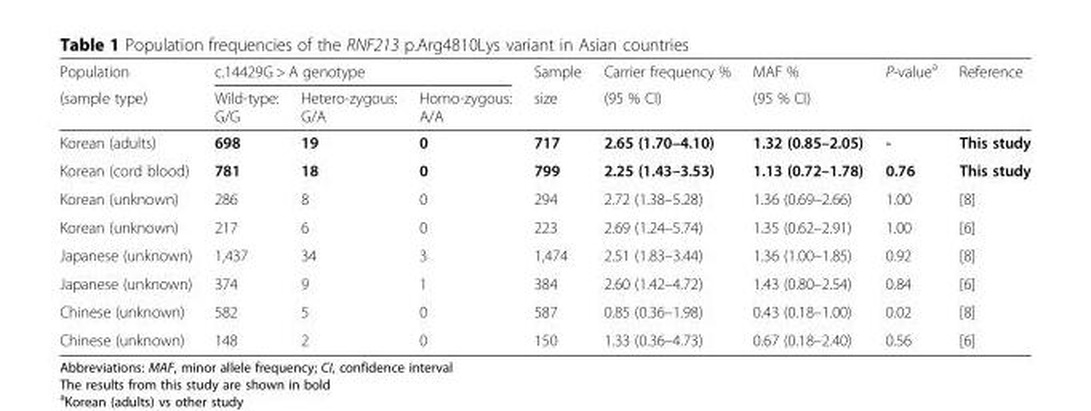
<table><thead><tr><td rowspan="2">Population (sample type)</td><td colspan="3">c.14429G &gt; A genotype</td><td rowspan="2">Sample size</td><td rowspan="2">Carrier frequency % (95 % CI)</td><td rowspan="2">MAF % (95 % CI)</td><td rowspan="2">P-value<sup>a</sup></td><td rowspan="2">Reference</td></tr><tr><td>Wild-type: G/G</td><td>Hetero-zygous: G/A</td><td>Homo-zygous: A/A</td></tr></thead><tbody><tr><td>Korean (adults)</td><td>698</td><td>19</td><td>0</td><td>717</td><td>2.65 (1.70–4.10)</td><td>1.32 (0.85–2.05)</td><td>-</td><td>This study</td></tr><tr><td>Korean (cord blood)</td><td>781</td><td>18</td><td>0</td><td>799</td><td>2.25 (1.43–3.53)</td><td>1.13 (0.72–1.78)</td><td>0.76</td><td>This study</td></tr><tr><td>Korean (unknown)</td><td>286</td><td>8</td><td>0</td><td>294</td><td>2.72 (1.38–5.28)</td><td>1.36 (0.69–2.66)</td><td>1.00</td><td>[8]</td></tr><tr><td>Korean (unknown)</td><td>217</td><td>6</td><td>0</td><td>223</td><td>2.69 (1.24–5.74)</td><td>1.35 (0.62–2.91)</td><td>1.00</td><td>[6]</td></tr><tr><td>Japanese (unknown)</td><td>1,437</td><td>34</td><td>3</td><td>1,474</td><td>2.51 (1.83–3.44)</td><td>1.36 (1.00–1.85)</td><td>0.92</td><td>[8]</td></tr><tr><td>Japanese (unknown)</td><td>374</td><td>9</td><td>1</td><td>384</td><td>2.60 (1.42–4.72)</td><td>1.43 (0.80–2.54)</td><td>0.84</td><td>[6]</td></tr><tr><td>Chinese (unknown)</td><td>582</td><td>5</td><td>0</td><td>587</td><td>0.85 (0.36–1.98)</td><td>0.43 (0.18–1.00)</td><td>0.02</td><td>[8]</td></tr><tr><td>Chinese (unknown)</td><td>148</td><td>2</td><td>0</td><td>150</td><td>1.33 (0.36–4.73)</td><td>0.67 (0.18–2.40)</td><td>0.56</td><td>[6]</td></tr></tbody></table>